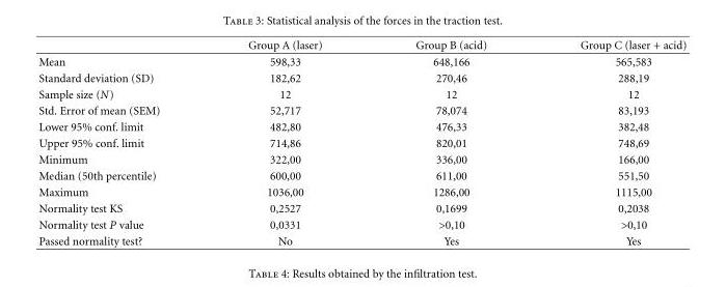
<table><thead><tr><td></td><td>Group A (laser)</td><td>Group B (acid)</td><td>Group C (laser + acid)</td></tr></thead><tbody><tr><td>Mean</td><td>598,33</td><td>648,166</td><td>565,583</td></tr><tr><td>Standard deviation (SD)</td><td>182,62</td><td>270,46</td><td>288,19</td></tr><tr><td>Sample size (N)</td><td>12</td><td>12</td><td>12</td></tr><tr><td>Std. Error of mean (SEM)</td><td>52,717</td><td>78,074</td><td>83,193</td></tr><tr><td>Lower 95% conf. limit</td><td>482,80</td><td>476,33</td><td>382,48</td></tr><tr><td>Upper 95% conf. limit</td><td>714,86</td><td>820,01</td><td>748,69</td></tr><tr><td>Minimum</td><td>322,00</td><td>336,00</td><td>166,00</td></tr><tr><td>Median (50th percentile)</td><td>600,00</td><td>611,00</td><td>551,50</td></tr><tr><td>Maximum</td><td>1036,00</td><td>1286,00</td><td>1115,00</td></tr><tr><td>Normality test KS</td><td>0,2527</td><td>0,1699</td><td>0,2038</td></tr><tr><td>Normality test P value</td><td>0,0331</td><td>&gt;0,10</td><td>&gt;0,10</td></tr><tr><td>Passed normality test?</td><td>No</td><td>Yes</td><td>Yes</td></tr></tbody></table>